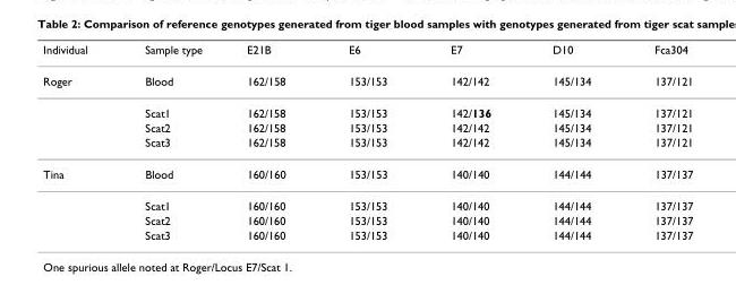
<table><thead><tr><td>Individual</td><td>Sample type</td><td>E21B</td><td>E6</td><td>E7</td><td>D10</td><td>Fca304</td></tr></thead><tbody><tr><td rowspan="4">Roger</td><td>Blood</td><td>162/158</td><td>153/153</td><td>142/142</td><td>145/134</td><td>137/121</td></tr><tr><td>Scat1</td><td>162/158</td><td>153/153</td><td>142/136</td><td>145/134</td><td>137/121</td></tr><tr><td>Scat2</td><td>162/158</td><td>153/153</td><td>142/142</td><td>145/134</td><td>137/121</td></tr><tr><td>Scat3</td><td>162/158</td><td>153/153</td><td>142/142</td><td>145/134</td><td>137/121</td></tr><tr><td rowspan="4">Tina</td><td>Blood</td><td>160/160</td><td>153/153</td><td>140/140</td><td>144/144</td><td>137/137</td></tr><tr><td>Scat1</td><td>160/160</td><td>153/153</td><td>140/140</td><td>144/144</td><td>137/137</td></tr><tr><td>Scat2</td><td>160/160</td><td>153/153</td><td>140/140</td><td>144/144</td><td>137/137</td></tr><tr><td>Scat3</td><td>160/160</td><td>153/153</td><td>140/140</td><td>144/144</td><td>137/137</td></tr></tbody></table>